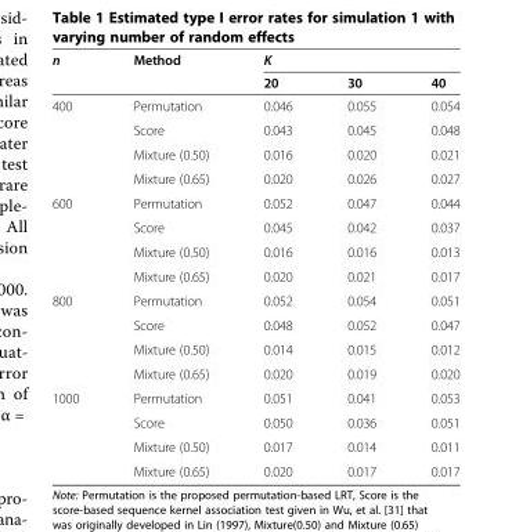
<table><thead><tr><td rowspan="2">n</td><td rowspan="2">Method</td><td colspan="3">K</td></tr><tr><td>20</td><td>30</td><td>40</td></tr></thead><tbody><tr><td rowspan="4">400</td><td>Permutation</td><td>0.046</td><td>0.055</td><td>0.054</td></tr><tr><td>Score</td><td>0.043</td><td>0.045</td><td>0.048</td></tr><tr><td>Mixture (0.50)</td><td>0.016</td><td>0.020</td><td>0.021</td></tr><tr><td>Mixture (0.65)</td><td>0.020</td><td>0.026</td><td>0.027</td></tr><tr><td rowspan="4">600</td><td>Permutation</td><td>0.052</td><td>0.047</td><td>0.044</td></tr><tr><td>Score</td><td>0.045</td><td>0.042</td><td>0.037</td></tr><tr><td>Mixture (0.50)</td><td>0.016</td><td>0.016</td><td>0.013</td></tr><tr><td>Mixture (0.65)</td><td>0.020</td><td>0.021</td><td>0.017</td></tr><tr><td rowspan="4">800</td><td>Permutation</td><td>0.052</td><td>0.054</td><td>0.051</td></tr><tr><td>Score</td><td>0.048</td><td>0.052</td><td>0.047</td></tr><tr><td>Mixture (0.50)</td><td>0.014</td><td>0.015</td><td>0.012</td></tr><tr><td>Mixture (0.65)</td><td>0.020</td><td>0.019</td><td>0.020</td></tr><tr><td rowspan="4">1000</td><td>Permutation</td><td>0.051</td><td>0.041</td><td>0.053</td></tr><tr><td>Score</td><td>0.050</td><td>0.036</td><td>0.051</td></tr><tr><td>Mixture (0.50)</td><td>0.017</td><td>0.014</td><td>0.011</td></tr><tr><td>Mixture (0.65)</td><td>0.020</td><td>0.017</td><td>0.017</td></tr></tbody></table>